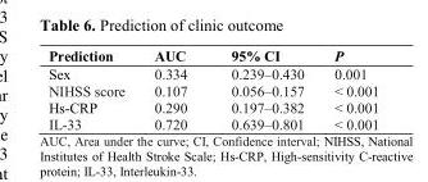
<table><thead><tr><td>Prediction</td><td>AUC</td><td>95% CI</td><td>P</td></tr></thead><tbody><tr><td>Sex</td><td>0.334</td><td>0.239–0.430</td><td>0.001</td></tr><tr><td>NIHSS score</td><td>0.107</td><td>0.056–0.157</td><td>&lt; 0.001</td></tr><tr><td>Hs-CRP</td><td>0.290</td><td>0.197–0.382</td><td>&lt; 0.001</td></tr><tr><td>IL-33</td><td>0.720</td><td>0.639–0.801</td><td>&lt; 0.001</td></tr></tbody></table>